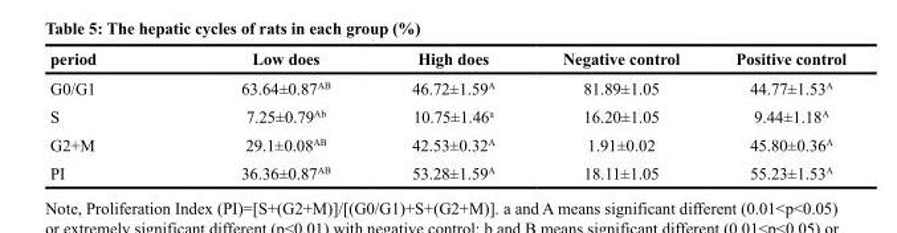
<table><thead><tr><td>period</td><td>Low does</td><td>High does</td><td>Negative control</td><td>Positive control</td></tr></thead><tbody><tr><td>G0/G1</td><td>63.64±0.87<sup>AB</sup></td><td>46.72±1.59<sup>A</sup></td><td>81.89±1.05</td><td>44.77±1.53<sup>A</sup></td></tr><tr><td>S</td><td>7.25±0.79<sup>Ab</sup></td><td>10.75±1.46<sup>a</sup></td><td>16.20±1.05</td><td>9.44±1.18<sup>A</sup></td></tr><tr><td>G2+M</td><td>29.1±0.08<sup>AB</sup></td><td>42.53±0.32<sup>A</sup></td><td>1.91±0.02</td><td>45.80±0.36<sup>A</sup></td></tr><tr><td>PI</td><td>36.36±0.87<sup>AB</sup></td><td>53.28±1.59<sup>A</sup></td><td>18.11±1.05</td><td>55.23±1.53<sup>A</sup></td></tr></tbody></table>